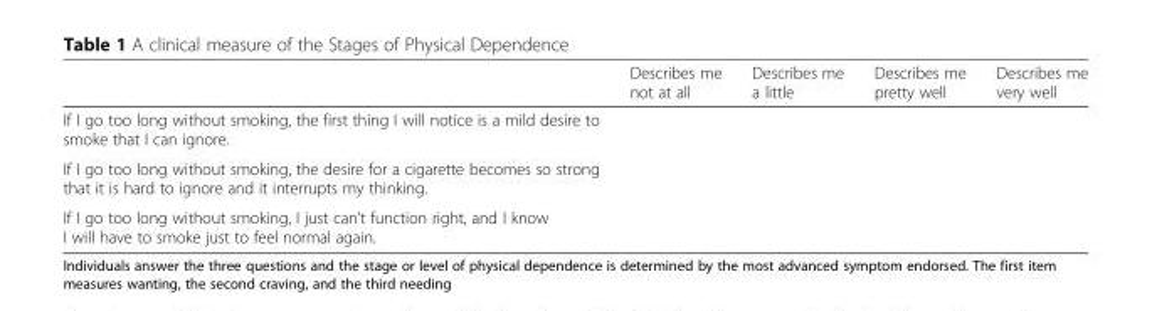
<table><thead><tr><td></td><td>Describes me not at all</td><td>Describes me a little</td><td>Describes me pretty well</td><td>Describes me very well</td></tr></thead><tbody><tr><td colspan="5">If I go too long without smoking, the first thing I will notice is a mild desire to smoke that I can ignore.</td></tr><tr><td colspan="5">If I go too long without smoking, the desire for a cigarette becomes so strong that it is hard to ignore and it interrupts my thinking.</td></tr><tr><td>If I go too long without smoking, I just can’t function right, and I know I will have to smoke just to feel normal again.</td><td></td><td></td><td></td><td></td></tr></tbody></table>